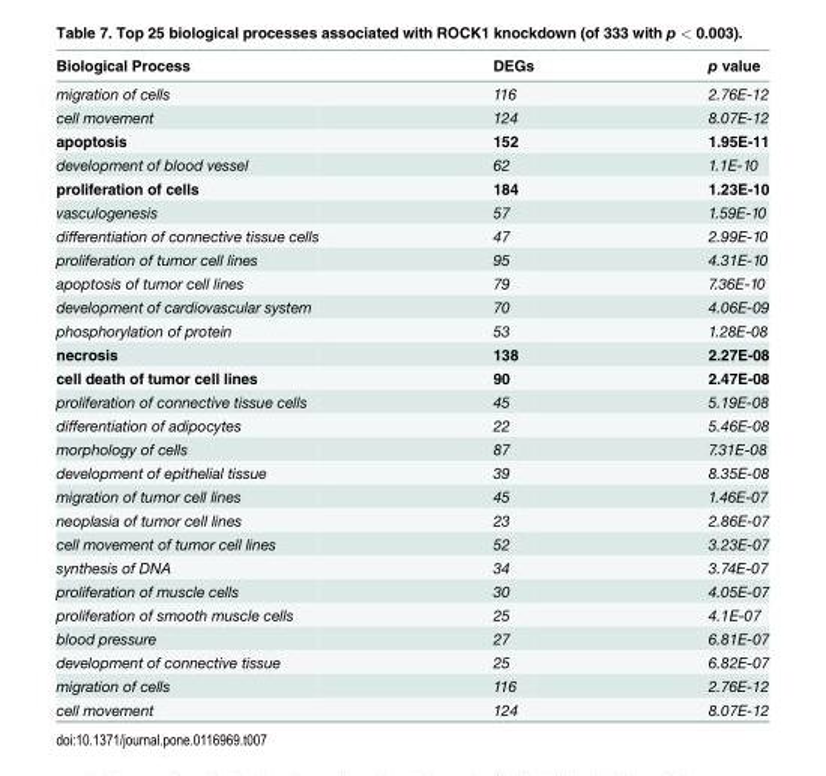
<table><thead><tr><td>Biological Process</td><td>DEGs</td><td>p value</td></tr></thead><tbody><tr><td>migration of cells</td><td>116</td><td>2.76E-12</td></tr><tr><td>cell movement</td><td>124</td><td>8.07E-12</td></tr><tr><td>apoptosis</td><td>152</td><td>1.95E-11</td></tr><tr><td>development of blood vessel</td><td>62</td><td>1.1E-10</td></tr><tr><td>proliferation of cells</td><td>184</td><td>1.23E-10</td></tr><tr><td>vasculogenesis</td><td>57</td><td>1.59E-10</td></tr><tr><td>differentiation of connective tissue cells</td><td>47</td><td>2.99E-10</td></tr><tr><td>proliferation of tumor cell lines</td><td>95</td><td>4.31E-10</td></tr><tr><td>apoptosis of tumor cell lines</td><td>79</td><td>7.36E-10</td></tr><tr><td>development of cardiovascular system</td><td>70</td><td>4.06E-09</td></tr><tr><td>phosphorylation of protein</td><td>53</td><td>1.28E-08</td></tr><tr><td>necrosis</td><td>138</td><td>2.27E-08</td></tr><tr><td>cell death of tumor cell lines</td><td>90</td><td>2.47E-08</td></tr><tr><td>proliferation of connective tissue cells</td><td>45</td><td>5.19E-08</td></tr><tr><td>differentiation of adipocytes</td><td>22</td><td>5.46E-08</td></tr><tr><td>morphology of cells</td><td>87</td><td>7.31E-08</td></tr><tr><td>development of epithelial tissue</td><td>39</td><td>8.35E-08</td></tr><tr><td>migration of tumor cell lines</td><td>45</td><td>1.46E-07</td></tr><tr><td>neoplasia of tumor cell lines</td><td>23</td><td>2.86E-07</td></tr><tr><td>cell movement of tumor cell lines</td><td>52</td><td>3.23E-07</td></tr><tr><td>synthesis of DNA</td><td>34</td><td>3.74E-07</td></tr><tr><td>proliferation of muscle cells</td><td>30</td><td>4.05E-07</td></tr><tr><td>proliferation of smooth muscle cells</td><td>25</td><td>4.1E-07</td></tr><tr><td>blood pressure</td><td>27</td><td>6.81E-07</td></tr><tr><td>development of connective tissue</td><td>25</td><td>6.82E-07</td></tr><tr><td>migration of cells</td><td>116</td><td>2.76E-12</td></tr><tr><td>cell movement</td><td>124</td><td>8.07E-12</td></tr></tbody></table>